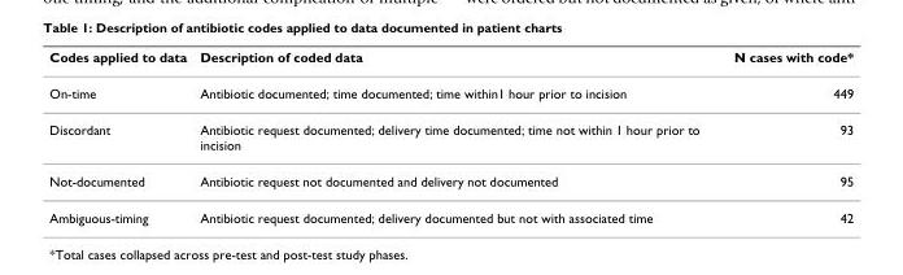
<table><thead><tr><td>Codes applied to data</td><td>Description of coded data</td><td>N cases with code*</td></tr></thead><tbody><tr><td>On-time</td><td>Antibiotic documented; time documented; time within1 hour prior to incision</td><td>449</td></tr><tr><td>Discordant</td><td>Antibiotic request documented; delivery time documented; time not within 1 hour prior to incision</td><td>93</td></tr><tr><td>Not-documented</td><td>Antibiotic request not documented and delivery not documented</td><td>95</td></tr><tr><td>Ambiguous-timing</td><td>Antibiotic request documented; delivery documented but not with associated time</td><td>42</td></tr></tbody></table>